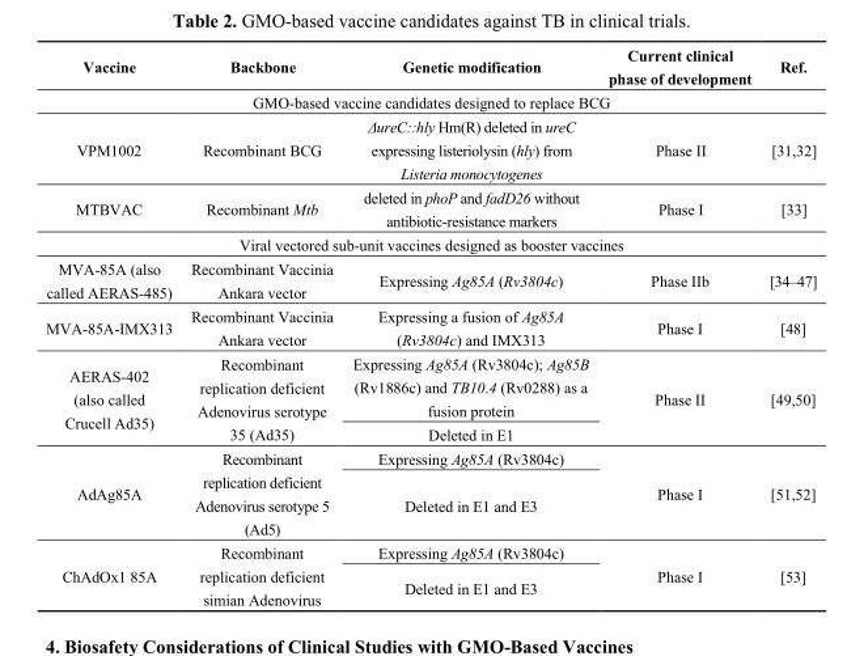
<table><thead><tr><td>Vaccine</td><td>Backbone</td><td>Genetic modification</td><td>Current clinical phase of development</td><td>Ref.</td></tr></thead><tbody><tr><td colspan="5">GMO-based vaccine candidates designed to replace BCG</td></tr><tr><td>VPM1002</td><td>Recombinant BCG</td><td>ΔureC::hly Hm(R) deleted in ureC expressing listeriolysin (hly) from Listeria monocytogenes</td><td>Phase II</td><td>[31,32]</td></tr><tr><td>MTBVAC</td><td>Recombinant Mtb</td><td>deleted in phoP and fadD26 without antibiotic-resistance markers</td><td>Phase I</td><td>[33]</td></tr><tr><td colspan="5">Viral vectored sub-unit vaccines designed as booster vaccines</td></tr><tr><td>MVA-85A (also called AERAS-485)</td><td>Recombinant Vaccinia Ankara vector</td><td>Expressing Ag85A (Rv3804c)</td><td>Phase IIb</td><td>[34–47]</td></tr><tr><td>MVA-85A-IMX313</td><td>Recombinant Vaccinia Ankara vector</td><td>Expressing a fusion of Ag85A (Rv3804c) and IMX313</td><td>Phase I</td><td>[48]</td></tr><tr><td rowspan="2">AERAS-402 (also called Crucell Ad35)</td><td rowspan="2">Recombinant replication deficient Adenovirus serotype 35 (Ad35)</td><td>Expressing Ag85A (Rv3804c); Ag85B (Rv1886c) and TB10.4 (Rv0288) as a fusion protein</td><td rowspan="2">Phase II</td><td rowspan="2">[49,50]</td></tr><tr><td>Deleted in E1</td></tr><tr><td rowspan="2">AdAg85A</td><td rowspan="2">Recombinant replication deficient Adenovirus serotype 5 (Ad5)</td><td>Expressing Ag85A (Rv3804c)</td><td rowspan="2">Phase I</td><td rowspan="2">[51,52]</td></tr><tr><td>Deleted in E1 and E3</td></tr><tr><td rowspan="2">ChAdOx1 85A</td><td rowspan="2">Recombinant replication deficient simian Adenovirus</td><td>Expressing Ag85A (Rv3804c)</td><td rowspan="2">Phase I</td><td rowspan="2">[53]</td></tr><tr><td>Deleted in E1 and E3</td></tr></tbody></table>